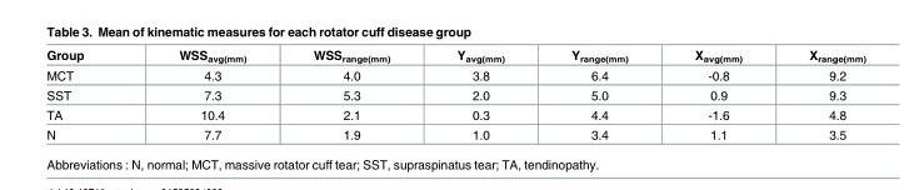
<table><thead><tr><td>Group</td><td>WSS<sub>avg(mm)</sub></td><td>WSS<sub>range(mm)</sub></td><td>Y<sub>avg(mm)</sub></td><td>Y<sub>range(mm)</sub></td><td>X<sub>avg(mm)</sub></td><td>X<sub>range(mm)</sub></td></tr></thead><tbody><tr><td>MCT</td><td>4.3</td><td>4.0</td><td>3.8</td><td>6.4</td><td>-0.8</td><td>9.2</td></tr><tr><td>SST</td><td>7.3</td><td>5.3</td><td>2.0</td><td>5.0</td><td>0.9</td><td>9.3</td></tr><tr><td>TA</td><td>10.4</td><td>2.1</td><td>0.3</td><td>4.4</td><td>-1.6</td><td>4.8</td></tr><tr><td>N</td><td>7.7</td><td>1.9</td><td>1.0</td><td>3.4</td><td>1.1</td><td>3.5</td></tr></tbody></table>